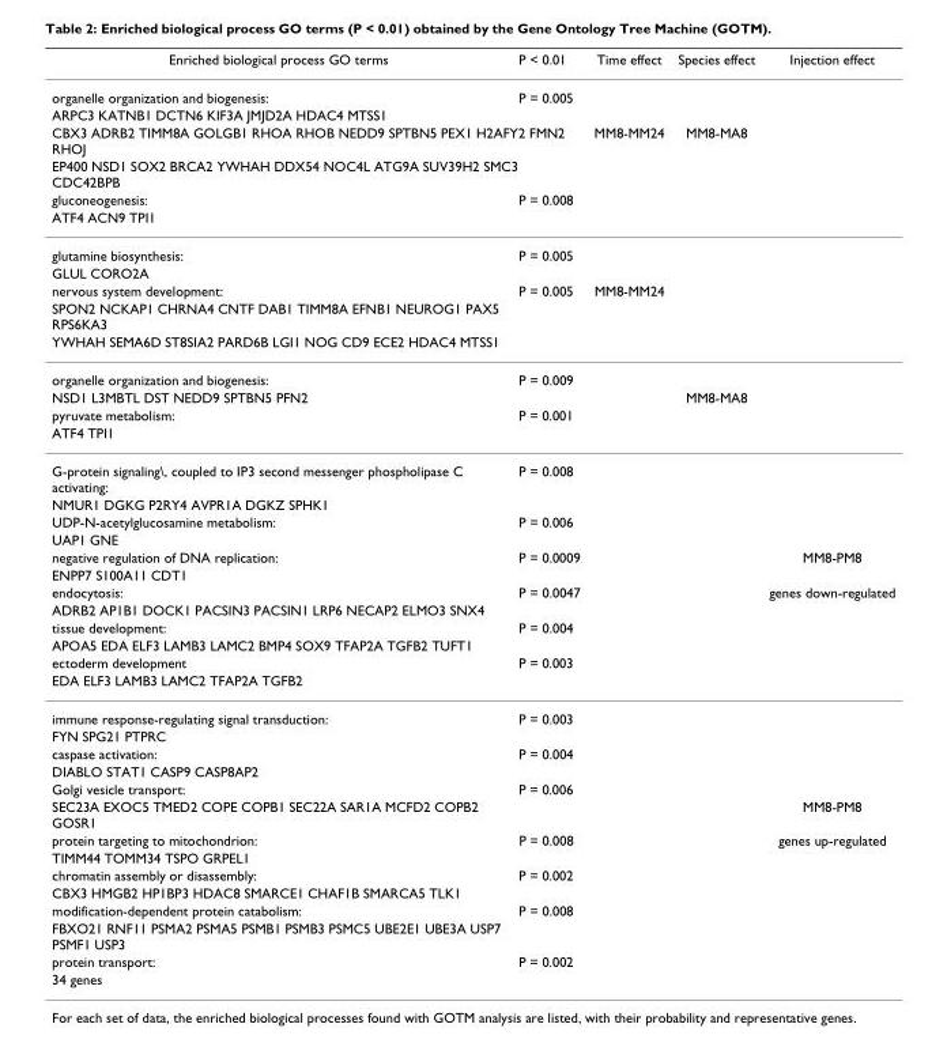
<table><thead><tr><td>Enriched biological process GO terms</td><td>P &lt; 0.01</td><td>Time effect</td><td>Species effect</td><td>Injection effect</td></tr></thead><tbody><tr><td>organelle organization and biogenesis:</td><td>P = 0.005</td><td></td><td></td><td></td></tr><tr><td colspan="5">ARPC3 KATNB1 DCTN6 KIF3A JMJD2A HDAC4 MTSS1</td></tr><tr><td colspan="2">CBX3 ADRB2 TIMM8A GOLGB1 RHOA RHOB NEDD9 SPTBN5 PEX1 H2AFY2 FMN2 RHOJ</td><td>MM8-MM24</td><td>MM8-MA8</td><td></td></tr><tr><td colspan="5">EP400 NSD1 SOX2 BRCA2 YWHAH DDX54 NOC4L ATG9A SUV39H2 SMC3 CDC42BPB</td></tr><tr><td>gluconeogenesis:</td><td>P = 0.008</td><td></td><td></td><td></td></tr><tr><td colspan="5">ATF4 ACN9 TPI1</td></tr><tr><td>glutamine biosynthesis:</td><td>P = 0.005</td><td></td><td></td><td></td></tr><tr><td colspan="5">GLUL CORO2A</td></tr><tr><td>nervous system development:</td><td>P = 0.005</td><td>MM8-MM24</td><td></td><td></td></tr><tr><td colspan="5">SPON2 NCKAP1 CHRNA4 CNTF DAB1 TIMM8A EFNB1 NEUROG1 PAX5 RPS6KA3</td></tr><tr><td colspan="5">YWHAH SEMA6D ST8SIA2 PARD6B LGI1 NOG CD9 ECE2 HDAC4 MTSS1</td></tr><tr><td>organelle organization and biogenesis:</td><td>P = 0.009</td><td></td><td></td><td></td></tr><tr><td>NSD1 L3MBTL DST NEDD9 SPTBN5 PFN2</td><td></td><td></td><td>MM8-MA8</td><td></td></tr><tr><td>pyruvate metabolism:</td><td>P = 0.001</td><td></td><td></td><td></td></tr><tr><td colspan="5">ATF4 TPI1</td></tr><tr><td>G-protein signaling\, coupled to IP3 second messenger phospholipase C activating:</td><td>P = 0.008</td><td></td><td></td><td></td></tr><tr><td colspan="5">NMUR1 DGKG P2RY4 AVPR1A DGKZ SPHK1</td></tr><tr><td>UDP-N-acetylglucosamine metabolism:</td><td>P = 0.006</td><td></td><td></td><td></td></tr><tr><td colspan="5">UAP1 GNE</td></tr><tr><td>negative regulation of DNA replication:</td><td>P = 0.0009</td><td></td><td></td><td>MM8-PM8</td></tr><tr><td colspan="5">ENPP7 S100A11 CDT1</td></tr><tr><td>endocytosis:</td><td>P = 0.0047</td><td></td><td></td><td>genes down-regulated</td></tr><tr><td colspan="5">ADRB2 AP1B1 DOCK1 PACSIN3 PACSIN1 LRP6 NECAP2 ELMO3 SNX4</td></tr><tr><td>tissue development:</td><td>P = 0.004</td><td></td><td></td><td></td></tr><tr><td colspan="5">APOA5 EDA ELF3 LAMB3 LAMC2 BMP4 SOX9 TFAP2A TGFB2 TUFT1</td></tr><tr><td>ectoderm development</td><td>P = 0.003</td><td></td><td></td><td></td></tr><tr><td colspan="5">EDA ELF3 LAMB3 LAMC2 TFAP2A TGFB2</td></tr><tr><td>immune response-regulating signal transduction:</td><td>P = 0.003</td><td></td><td></td><td></td></tr><tr><td colspan="5">FYN SPG21 PTPRC</td></tr><tr><td>caspase activation:</td><td>P = 0.004</td><td></td><td></td><td></td></tr><tr><td colspan="5">DIABLO STAT1 CASP9 CASP8AP2</td></tr><tr><td>Golgi vesicle transport:</td><td>P = 0.006</td><td></td><td></td><td></td></tr><tr><td>SEC23A EXOC5 TMED2 COPE COPB1 SEC22A SAR1A MCFD2 COPB2 GOSR1</td><td></td><td></td><td></td><td>MM8-PM8</td></tr><tr><td>protein targeting to mitochondrion:</td><td>P = 0.008</td><td></td><td></td><td>genes up-regulated</td></tr><tr><td colspan="5">TIMM44 TOMM34 TSPO GRPEL1</td></tr><tr><td>chromatin assembly or disassembly:</td><td>P = 0.002</td><td></td><td></td><td></td></tr><tr><td colspan="5">CBX3 HMGB2 HP1BP3 HDAC8 SMARCE1 CHAF1B SMARCA5 TLK1</td></tr><tr><td>modification-dependent protein catabolism:</td><td>P = 0.008</td><td></td><td></td><td></td></tr><tr><td colspan="5">FBXO21 RNF11 PSMA2 PSMA5 PSMB1 PSMB3 PSMC5 UBE2E1 UBE3A USP7 PSMF1 USP3</td></tr><tr><td>protein transport:</td><td>P = 0.002</td><td></td><td></td><td></td></tr><tr><td>34 genes</td><td></td><td></td><td></td><td></td></tr></tbody></table>